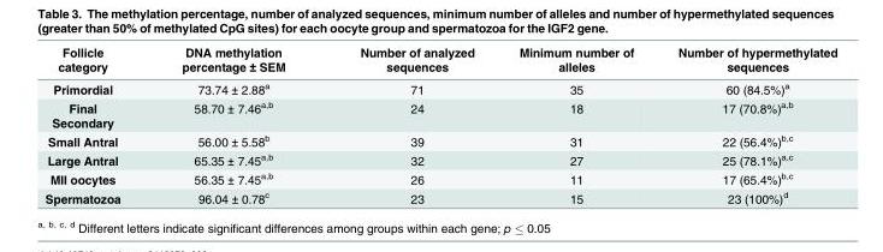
<table><thead><tr><td>Follicle category</td><td>DNA methylation percentage ± SEM</td><td>Number of analyzed sequences</td><td>Minimum number of alleles</td><td>Number of hypermethylated sequences</td></tr></thead><tbody><tr><td>Primordial</td><td>73.74 ± 2.88<sup>a</sup></td><td>71</td><td>35</td><td>60 (84.5%)<sup>a</sup></td></tr><tr><td>Final Secondary</td><td>58.70 ± 7.46<sup>a,b</sup></td><td>24</td><td>18</td><td>17 (70.8%)<sup>a,b</sup></td></tr><tr><td>Small Antral</td><td>56.00 ± 5.58<sup>b</sup></td><td>39</td><td>31</td><td>22 (56.4%)<sup>b,c</sup></td></tr><tr><td>Large Antral</td><td>65.35 ± 7.45<sup>a,b</sup></td><td>32</td><td>27</td><td>25 (78.1%)<sup>a,c</sup></td></tr><tr><td>MII oocytes</td><td>56.35 ± 7.45<sup>a,b</sup></td><td>26</td><td>11</td><td>17 (65.4%)<sup>b,c</sup></td></tr><tr><td>Spermatozoa</td><td>96.04 ± 0.78<sup>c</sup></td><td>23</td><td>15</td><td>23 (100%)<sup>d</sup></td></tr></tbody></table>